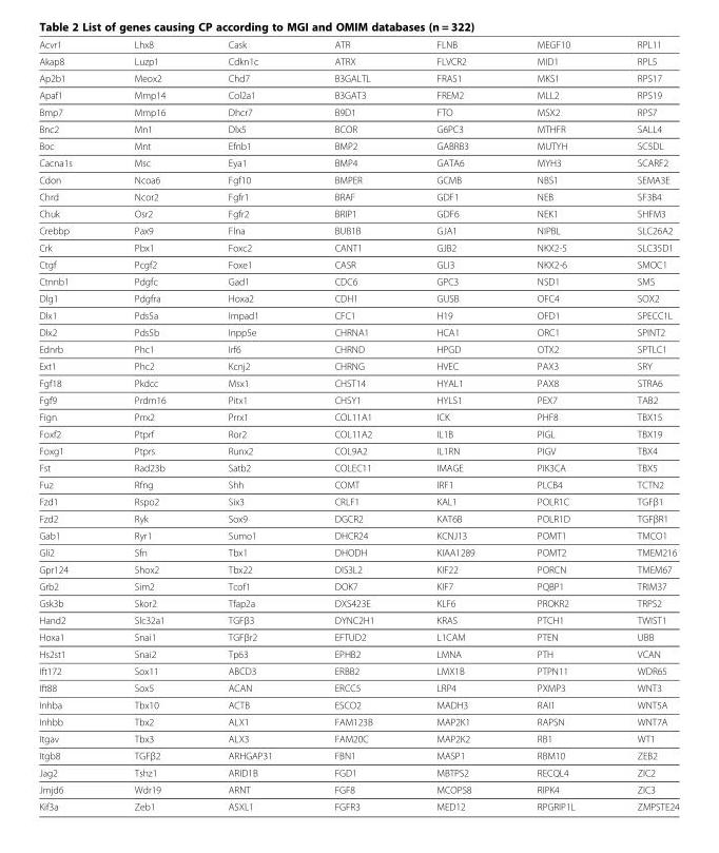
<table><thead><tr><td>Acvr1</td><td>Lhx8</td><td>Cask</td><td>ATR</td><td>FLNB</td><td>MEGF10</td><td>RPL11</td></tr></thead><tbody><tr><td>Akap8</td><td>Luzp1</td><td>Cdkn1c</td><td>ATRX</td><td>FLVCR2</td><td>MID1</td><td>RPL5</td></tr><tr><td>Ap2b1</td><td>Meox2</td><td>Chd7</td><td>B3GALTL</td><td>FRAS1</td><td>MKS1</td><td>RPS17</td></tr><tr><td>Apaf1</td><td>Mmp14</td><td>Col2a1</td><td>B3GAT3</td><td>FREM2</td><td>MLL2</td><td>RPS19</td></tr><tr><td>Bmp7</td><td>Mmp16</td><td>Dhcr7</td><td>B9D1</td><td>FTO</td><td>MSX2</td><td>RPS7</td></tr><tr><td>Bnc2</td><td>Mn1</td><td>Dlx5</td><td>BCOR</td><td>G6PC3</td><td>MTHFR</td><td>SALL4</td></tr><tr><td>Boc</td><td>Mnt</td><td>Efnb1</td><td>BMP2</td><td>GABRB3</td><td>MUTYH</td><td>SC5DL</td></tr><tr><td>Cacna1s</td><td>Msc</td><td>Eya1</td><td>BMP4</td><td>GATA6</td><td>MYH3</td><td>SCARF2</td></tr><tr><td>Cdon</td><td>Ncoa6</td><td>Fgf10</td><td>BMPER</td><td>GCMB</td><td>NBS1</td><td>SEMA3E</td></tr><tr><td>Chrd</td><td>Ncor2</td><td>Fgfr1</td><td>BRAF</td><td>GDF1</td><td>NEB</td><td>SF3B4</td></tr><tr><td>Chuk</td><td>Osr2</td><td>Fgfr2</td><td>BRIP1</td><td>GDF6</td><td>NEK1</td><td>SHFM3</td></tr><tr><td>Crebbp</td><td>Pax9</td><td>Flna</td><td>BUB1B</td><td>GJA1</td><td>NIPBL</td><td>SLC26A2</td></tr><tr><td>Crk</td><td>Pbx1</td><td>Foxc2</td><td>CANT1</td><td>GJB2</td><td>NKX2-5</td><td>SLC35D1</td></tr><tr><td>Ctgf</td><td>Pcgf2</td><td>Foxe1</td><td>CASR</td><td>GLI3</td><td>NKX2-6</td><td>SMOC1</td></tr><tr><td>Ctnnb1</td><td>Pdgfc</td><td>Gad1</td><td>CDC6</td><td>GPC3</td><td>NSD1</td><td>SMS</td></tr><tr><td>Dlg1</td><td>Pdgfra</td><td>Hoxa2</td><td>CDH1</td><td>GUSB</td><td>OFC4</td><td>SOX2</td></tr><tr><td>Dlx1</td><td>Pds5a</td><td>Impad1</td><td>CFC1</td><td>H19</td><td>OFD1</td><td>SPECC1L</td></tr><tr><td>Dlx2</td><td>Pds5b</td><td>Inpp5e</td><td>CHRNA1</td><td>HCA1</td><td>ORC1</td><td>SPINT2</td></tr><tr><td>Ednrb</td><td>Phc1</td><td>Irf6</td><td>CHRND</td><td>HPGD</td><td>OTX2</td><td>SPTLC1</td></tr><tr><td>Ext1</td><td>Phc2</td><td>Kcnj2</td><td>CHRNG</td><td>HVEC</td><td>PAX3</td><td>SRY</td></tr><tr><td>Fgf18</td><td>Pkdcc</td><td>Msx1</td><td>CHST14</td><td>HYAL1</td><td>PAX8</td><td>STRA6</td></tr><tr><td>Fgf9</td><td>Prdm16</td><td>Pitx1</td><td>CHSY1</td><td>HYLS1</td><td>PEX7</td><td>TAB2</td></tr><tr><td>Fign</td><td>Prrx2</td><td>Prrx1</td><td>COL11A1</td><td>ICK</td><td>PHF8</td><td>TBX15</td></tr><tr><td>Foxf2</td><td>Ptprf</td><td>Ror2</td><td>COL11A2</td><td>IL1B</td><td>PIGL</td><td>TBX19</td></tr><tr><td>Foxg1</td><td>Ptprs</td><td>Runx2</td><td>COL9A2</td><td>IL1RN</td><td>PIGV</td><td>TBX4</td></tr><tr><td>Fst</td><td>Rad23b</td><td>Satb2</td><td>COLEC11</td><td>IMAGE</td><td>PIK3CA</td><td>TBX5</td></tr><tr><td>Fuz</td><td>Rfng</td><td>Shh</td><td>COMT</td><td>IRF1</td><td>PLCB4</td><td>TCTN2</td></tr><tr><td>Fzd1</td><td>Rspo2</td><td>Six3</td><td>CRLF1</td><td>KAL1</td><td>POLR1C</td><td>TGFβ1</td></tr><tr><td>Fzd2</td><td>Ryk</td><td>Sox9</td><td>DGCR2</td><td>KAT6B</td><td>POLR1D</td><td>TGFβR1</td></tr><tr><td>Gab1</td><td>Ryr1</td><td>Sumo1</td><td>DHCR24</td><td>KCNJ13</td><td>POMT1</td><td>TMCO1</td></tr><tr><td>Gli2</td><td>Sfn</td><td>Tbx1</td><td>DHODH</td><td>KIAA1289</td><td>POMT2</td><td>TMEM216</td></tr><tr><td>Gpr124</td><td>Shox2</td><td>Tbx22</td><td>DIS3L2</td><td>KIF22</td><td>PORCN</td><td>TMEM67</td></tr><tr><td>Grb2</td><td>Sim2</td><td>Tcof1</td><td>DOK7</td><td>KIF7</td><td>PQBP1</td><td>TRIM37</td></tr><tr><td>Gsk3b</td><td>Skor2</td><td>Tfap2a</td><td>DXS423E</td><td>KLF6</td><td>PROKR2</td><td>TRPS2</td></tr><tr><td>Hand2</td><td>Slc32a1</td><td>TGFβ3</td><td>DYNC2H1</td><td>KRAS</td><td>PTCH1</td><td>TWIST1</td></tr><tr><td>Hoxa1</td><td>Snai1</td><td>TGFβr2</td><td>EFTUD2</td><td>L1CAM</td><td>PTEN</td><td>UBB</td></tr><tr><td>Hs2st1</td><td>Snai2</td><td>Tp63</td><td>EPHB2</td><td>LMNA</td><td>PTH</td><td>VCAN</td></tr><tr><td>Ift172</td><td>Sox11</td><td>ABCD3</td><td>ERBB2</td><td>LMX1B</td><td>PTPN11</td><td>WDR65</td></tr><tr><td>Ift88</td><td>Sox5</td><td>ACAN</td><td>ERCC5</td><td>LRP4</td><td>PXMP3</td><td>WNT3</td></tr><tr><td>Inhba</td><td>Tbx10</td><td>ACTB</td><td>ESCO2</td><td>MADH3</td><td>RAI1</td><td>WNT5A</td></tr><tr><td>Inhbb</td><td>Tbx2</td><td>ALX1</td><td>FAM123B</td><td>MAP2K1</td><td>RAPSN</td><td>WNT7A</td></tr><tr><td>Itgav</td><td>Tbx3</td><td>ALX3</td><td>FAM20C</td><td>MAP2K2</td><td>RB1</td><td>WT1</td></tr><tr><td>Itgb8</td><td>TGFβ2</td><td>ARHGAP31</td><td>FBN1</td><td>MASP1</td><td>RBM10</td><td>ZEB2</td></tr><tr><td>Jag2</td><td>Tshz1</td><td>ARID1B</td><td>FGD1</td><td>MBTPS2</td><td>RECQL4</td><td>ZIC2</td></tr><tr><td>Jmjd6</td><td>Wdr19</td><td>ARNT</td><td>FGF8</td><td>MCOPS8</td><td>RIPK4</td><td>ZIC3</td></tr><tr><td>Kif3a</td><td>Zeb1</td><td>ASXL1</td><td>FGFR3</td><td>MED12</td><td>RPGRIP1L</td><td>ZMPSTE24</td></tr></tbody></table>